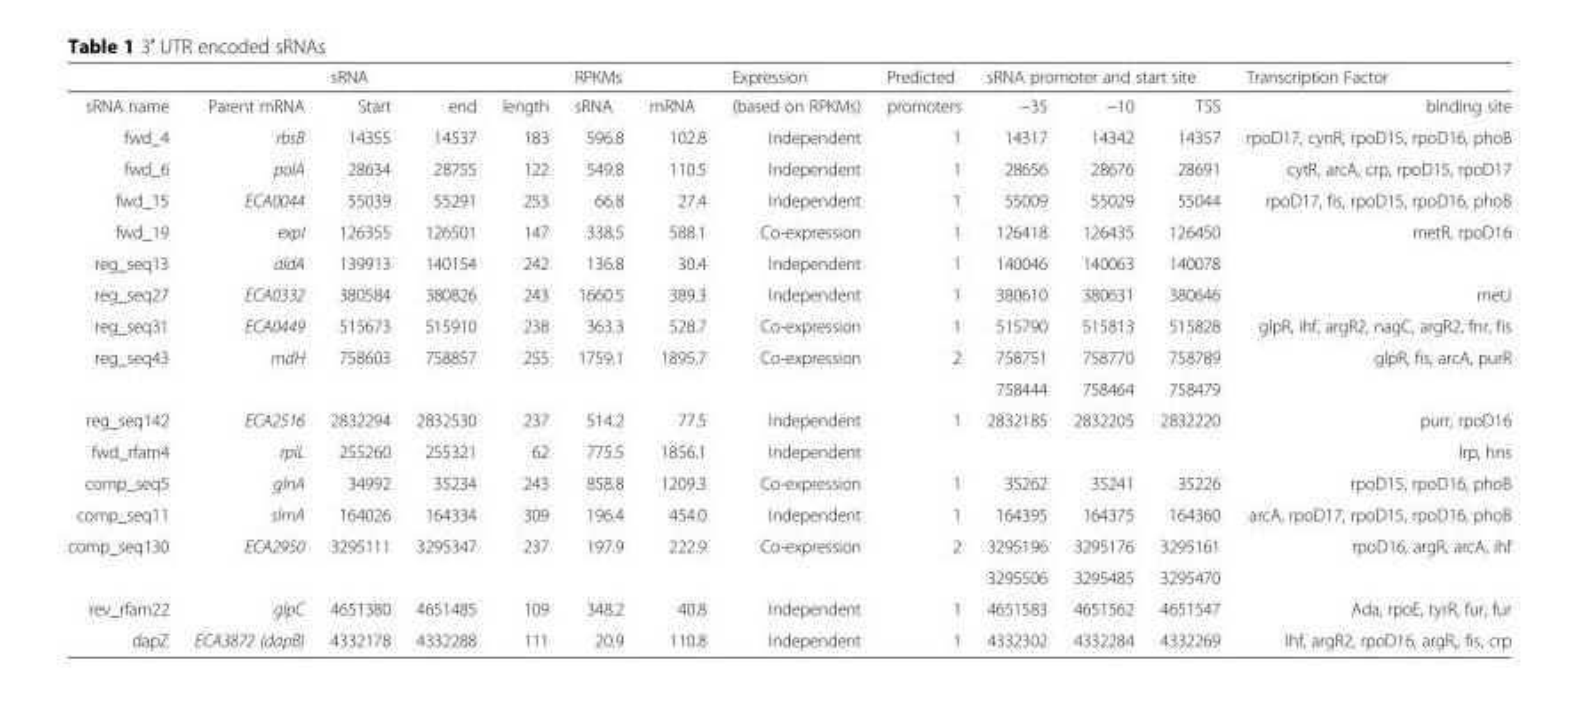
<table><thead><tr><td rowspan="2">sRNA name</td><td rowspan="2">Parent mRNA</td><td colspan="3">sRNA</td><td colspan="2">RPKMs</td><td rowspan="2">Expression (based on RPKMs)</td><td rowspan="2">Predicted promoters</td><td colspan="3">sRNA promoter and start site</td><td rowspan="2">Transcription Factor binding site</td></tr><tr><td>Start</td><td>end</td><td>length</td><td>sRNA</td><td>mRNA</td><td>−35</td><td>−10</td><td>TSS</td></tr></thead><tbody><tr><td>fwd_4</td><td>rbsB</td><td>14355</td><td>14537</td><td>183</td><td>596.8</td><td>102.8</td><td>Independent</td><td>1</td><td>14317</td><td>14342</td><td>14357</td><td>rpoD17, cynR, rpoD15, rpoD16, phoB</td></tr><tr><td>fwd_6</td><td>polA</td><td>28634</td><td>28755</td><td>122</td><td>549.8</td><td>110.5</td><td>Independent</td><td>1</td><td>28656</td><td>28676</td><td>28691</td><td>cytR, arcA, crp, rpoD15, rpoD17</td></tr><tr><td>fwd_15</td><td>ECA0044</td><td>55039</td><td>55291</td><td>253</td><td>66.8</td><td>27.4</td><td>Independent</td><td>1</td><td>55009</td><td>55029</td><td>55044</td><td>rpoD17, fis, rpoD15, rpoD16, phoB</td></tr><tr><td>fwd_19</td><td>expI</td><td>126355</td><td>126501</td><td>147</td><td>338.5</td><td>588.1</td><td>Co-expression</td><td>1</td><td>126418</td><td>126435</td><td>126450</td><td>metR, rpoD16</td></tr><tr><td>reg_seq13</td><td>aldA</td><td>139913</td><td>140154</td><td>242</td><td>136.8</td><td>30.4</td><td>Independent</td><td>1</td><td>140046</td><td>140063</td><td>140078</td><td></td></tr><tr><td>reg_seq27</td><td>ECA0332</td><td>380584</td><td>380826</td><td>243</td><td>1660.5</td><td>389.3</td><td>Independent</td><td>1</td><td>380610</td><td>380631</td><td>380646</td><td>metJ</td></tr><tr><td>reg_seq31</td><td>ECA0449</td><td>515673</td><td>515910</td><td>238</td><td>363.3</td><td>528.7</td><td>Co-expression</td><td>1</td><td>515790</td><td>515813</td><td>515828</td><td>glpR, ihf, argR2, nagC, argR2, fnr, fis</td></tr><tr><td rowspan="2">reg_seq43</td><td>mdH</td><td>758603</td><td>758857</td><td>255</td><td>1759.1</td><td>1895.7</td><td>Co-expression</td><td>2</td><td>758751</td><td>758770</td><td>758789</td><td>glpR, fis, arcA, purR</td></tr><tr><td></td><td></td><td></td><td></td><td></td><td></td><td></td><td></td><td>758444</td><td>758464</td><td>758479</td><td></td></tr><tr><td>reg_seq142</td><td>ECA2516</td><td>2832294</td><td>2832530</td><td>237</td><td>514.2</td><td>77.5</td><td>Independent</td><td>1</td><td>2832185</td><td>2832205</td><td>2832220</td><td>purr, rpoD16</td></tr><tr><td>fwd_rfam4</td><td>rpiL</td><td>255260</td><td>255321</td><td>62</td><td>775.5</td><td>1856.1</td><td>Independent</td><td></td><td></td><td></td><td></td><td>lrp, hns</td></tr><tr><td>comp_seq5</td><td>glnA</td><td>34992</td><td>35234</td><td>243</td><td>858.8</td><td>1209.3</td><td>Co-expression</td><td>1</td><td>35262</td><td>35241</td><td>35226</td><td>rpoD15, rpoD16, phoB</td></tr><tr><td>comp_seq11</td><td>slmA</td><td>164026</td><td>164334</td><td>309</td><td>196.4</td><td>454.0</td><td>Independent</td><td>1</td><td>164395</td><td>164375</td><td>164360</td><td>arcA, rpoD17, rpoD15, rpoD16, phoB</td></tr><tr><td rowspan="2">comp_seq130</td><td>ECA2950</td><td>3295111</td><td>3295347</td><td>237</td><td>197.9</td><td>222.9</td><td>Co-expression</td><td>2</td><td>3295196</td><td>3295176</td><td>3295161</td><td>rpoD16, argR, arcA, ihf</td></tr><tr><td></td><td></td><td></td><td></td><td></td><td></td><td></td><td></td><td>3295506</td><td>3295485</td><td>3295470</td><td></td></tr><tr><td>rev_rfam22</td><td>glpC</td><td>4651380</td><td>4651485</td><td>109</td><td>348.2</td><td>40.8</td><td>Independent</td><td>1</td><td>4651583</td><td>4651562</td><td>4651547</td><td>Ada, rpoE, tyrR, fur, fur</td></tr><tr><td>dapZ</td><td>ECA3872 (dapB)</td><td>4332178</td><td>4332288</td><td>111</td><td>20.9</td><td>110.8</td><td>Independent</td><td>1</td><td>4332302</td><td>4332284</td><td>4332269</td><td>Ihf, argR2, rpoD16, argR,, fis, crp</td></tr></tbody></table>